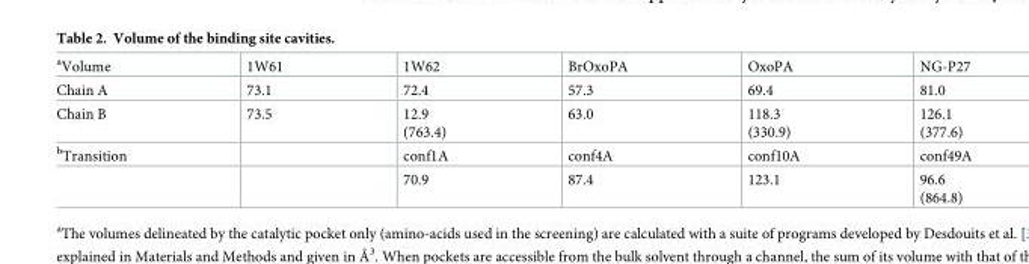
<table><tbody><tr><td><sup>a</sup>Volume</td><td>1W61</td><td>1W62</td><td>BrOxoPA</td><td>OxoPA</td><td>NG-P27</td></tr><tr><td>Chain A</td><td>73.1</td><td>72.4</td><td>57.3</td><td>69.4</td><td>81.0</td></tr><tr><td>Chain B</td><td>73.5</td><td>12.9 (763.4)</td><td>63.0</td><td>118.3 (330.9)</td><td>126.1 (377.6)</td></tr><tr><td rowspan="2"><sup>b</sup>Transition</td><td></td><td>conf1A</td><td>conf4A</td><td>conf10A</td><td>conf49A</td></tr><tr><td></td><td>70.9</td><td>87.4</td><td>123.1</td><td>96.6 (864.8)</td></tr></tbody></table>